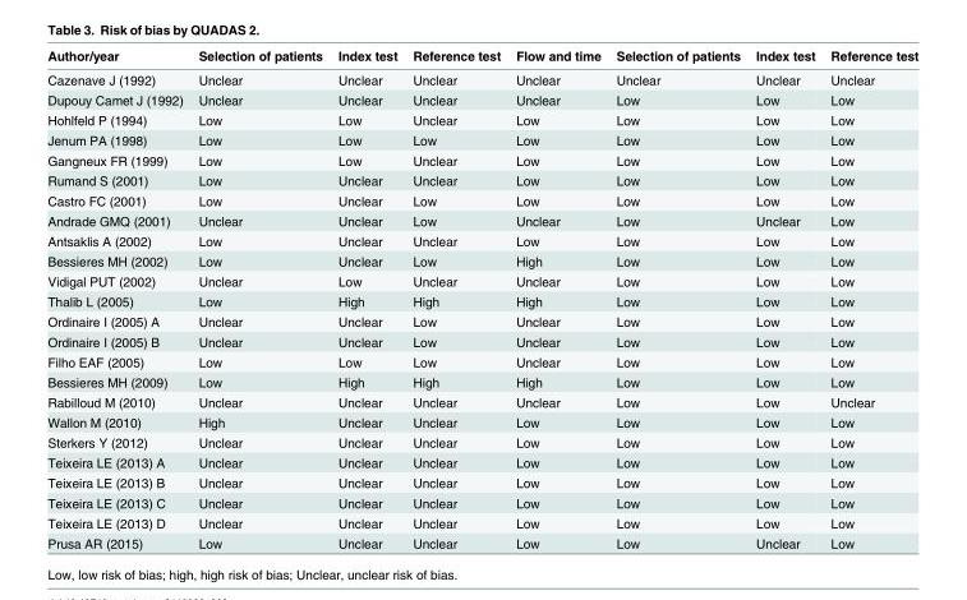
<table><thead><tr><td>Author/year</td><td>Selection of patients</td><td>Index test</td><td>Reference test</td><td>Flow and time</td><td>Selection of patients</td><td>Index test</td><td>Reference test</td></tr></thead><tbody><tr><td>Cazenave J (1992)</td><td>Unclear</td><td>Unclear</td><td>Unclear</td><td>Unclear</td><td>Unclear</td><td>Unclear</td><td>Unclear</td></tr><tr><td>Dupouy Camet J (1992)</td><td>Unclear</td><td>Unclear</td><td>Unclear</td><td>Unclear</td><td>Low</td><td>Low</td><td>Low</td></tr><tr><td>Hohlfeld P (1994)</td><td>Low</td><td>Low</td><td>Unclear</td><td>Low</td><td>Low</td><td>Low</td><td>Low</td></tr><tr><td>Jenum PA (1998)</td><td>Low</td><td>Low</td><td>Low</td><td>Low</td><td>Low</td><td>Low</td><td>Low</td></tr><tr><td>Gangneux FR (1999)</td><td>Low</td><td>Low</td><td>Unclear</td><td>Low</td><td>Low</td><td>Low</td><td>Low</td></tr><tr><td>Rumand S (2001)</td><td>Low</td><td>Unclear</td><td>Unclear</td><td>Low</td><td>Low</td><td>Low</td><td>Low</td></tr><tr><td>Castro FC (2001)</td><td>Low</td><td>Unclear</td><td>Low</td><td>Low</td><td>Low</td><td>Low</td><td>Low</td></tr><tr><td>Andrade GMQ (2001)</td><td>Unclear</td><td>Unclear</td><td>Low</td><td>Unclear</td><td>Low</td><td>Unclear</td><td>Low</td></tr><tr><td>Antsaklis A (2002)</td><td>Low</td><td>Unclear</td><td>Unclear</td><td>Low</td><td>Low</td><td>Low</td><td>Low</td></tr><tr><td>Bessieres MH (2002)</td><td>Low</td><td>Unclear</td><td>Low</td><td>High</td><td>Low</td><td>Low</td><td>Low</td></tr><tr><td>Vidigal PUT (2002)</td><td>Unclear</td><td>Low</td><td>Unclear</td><td>Unclear</td><td>Low</td><td>Low</td><td>Low</td></tr><tr><td>Thalib L (2005)</td><td>Low</td><td>High</td><td>High</td><td>High</td><td>Low</td><td>Low</td><td>Low</td></tr><tr><td>Ordinaire I (2005) A</td><td>Unclear</td><td>Unclear</td><td>Low</td><td>Unclear</td><td>Low</td><td>Low</td><td>Low</td></tr><tr><td>Ordinaire I (2005) B</td><td>Unclear</td><td>Unclear</td><td>Low</td><td>Unclear</td><td>Low</td><td>Low</td><td>Low</td></tr><tr><td>Filho EAF (2005)</td><td>Low</td><td>Low</td><td>Low</td><td>Unclear</td><td>Low</td><td>Low</td><td>Low</td></tr><tr><td>Bessieres MH (2009)</td><td>Low</td><td>High</td><td>High</td><td>High</td><td>Low</td><td>Low</td><td>Low</td></tr><tr><td>Rabilloud M (2010)</td><td>Unclear</td><td>Unclear</td><td>Unclear</td><td>Unclear</td><td>Low</td><td>Low</td><td>Unclear</td></tr><tr><td>Wallon M (2010)</td><td>High</td><td>Unclear</td><td>Unclear</td><td>Low</td><td>Low</td><td>Low</td><td>Low</td></tr><tr><td>Sterkers Y (2012)</td><td>Unclear</td><td>Unclear</td><td>Unclear</td><td>Low</td><td>Low</td><td>Low</td><td>Low</td></tr><tr><td>Teixeira LE (2013) A</td><td>Unclear</td><td>Unclear</td><td>Unclear</td><td>Low</td><td>Low</td><td>Low</td><td>Low</td></tr><tr><td>Teixeira LE (2013) B</td><td>Unclear</td><td>Unclear</td><td>Unclear</td><td>Low</td><td>Low</td><td>Low</td><td>Low</td></tr><tr><td>Teixeira LE (2013) C</td><td>Unclear</td><td>Unclear</td><td>Unclear</td><td>Low</td><td>Low</td><td>Low</td><td>Low</td></tr><tr><td>Teixeira LE (2013) D</td><td>Unclear</td><td>Unclear</td><td>Unclear</td><td>Low</td><td>Low</td><td>Low</td><td>Low</td></tr><tr><td>Prusa AR (2015)</td><td>Low</td><td>Unclear</td><td>Unclear</td><td>Low</td><td>Low</td><td>Unclear</td><td>Low</td></tr></tbody></table>